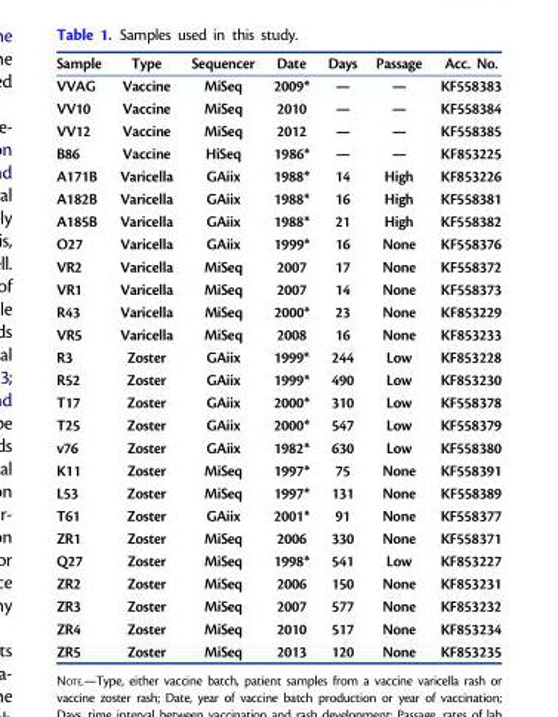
<table><thead><tr><td>Sample</td><td>Type</td><td>Sequencer</td><td>Date</td><td>Days</td><td>Passage</td><td>Acc. No.</td></tr></thead><tbody><tr><td>VVAG</td><td>Vaccine</td><td>MiSeq</td><td>2009*</td><td>—</td><td>—</td><td>KF558383</td></tr><tr><td>VV10</td><td>Vaccine</td><td>MiSeq</td><td>2010</td><td>—</td><td>—</td><td>KF558384</td></tr><tr><td>VV12</td><td>Vaccine</td><td>MiSeq</td><td>2012</td><td>—</td><td>—</td><td>KF558385</td></tr><tr><td>B86</td><td>Vaccine</td><td>HiSeq</td><td>1986*</td><td>—</td><td>—</td><td>KF853225</td></tr><tr><td>A171B</td><td>Varicella</td><td>GAiix</td><td>1988*</td><td>14</td><td>High</td><td>KF853226</td></tr><tr><td>A182B</td><td>Varicella</td><td>GAiix</td><td>1988*</td><td>16</td><td>High</td><td>KF558381</td></tr><tr><td>A185B</td><td>Varicella</td><td>GAiix</td><td>1988*</td><td>21</td><td>High</td><td>KF558382</td></tr><tr><td>O27</td><td>Varicella</td><td>GAiix</td><td>1999*</td><td>16</td><td>None</td><td>KF558376</td></tr><tr><td>VR2</td><td>Varicella</td><td>MiSeq</td><td>2007</td><td>17</td><td>None</td><td>KF558372</td></tr><tr><td>VR1</td><td>Varicella</td><td>MiSeq</td><td>2007</td><td>14</td><td>None</td><td>KF558373</td></tr><tr><td>R43</td><td>Varicella</td><td>MiSeq</td><td>2000*</td><td>23</td><td>None</td><td>KF853229</td></tr><tr><td>VR5</td><td>Varicella</td><td>MiSeq</td><td>2008</td><td>16</td><td>None</td><td>KF853233</td></tr><tr><td>R3</td><td>Zoster</td><td>GAiix</td><td>1999*</td><td>244</td><td>Low</td><td>KF853228</td></tr><tr><td>R52</td><td>Zoster</td><td>GAiix</td><td>1999*</td><td>490</td><td>Low</td><td>KF853230</td></tr><tr><td>T17</td><td>Zoster</td><td>GAiix</td><td>2000*</td><td>310</td><td>Low</td><td>KF558378</td></tr><tr><td>T25</td><td>Zoster</td><td>GAiix</td><td>2000*</td><td>547</td><td>Low</td><td>KF558379</td></tr><tr><td>v76</td><td>Zoster</td><td>GAiix</td><td>1982*</td><td>630</td><td>Low</td><td>KF558380</td></tr><tr><td>K11</td><td>Zoster</td><td>MiSeq</td><td>1997*</td><td>75</td><td>None</td><td>KF558391</td></tr><tr><td>L53</td><td>Zoster</td><td>MiSeq</td><td>1997*</td><td>131</td><td>None</td><td>KF558389</td></tr><tr><td>T61</td><td>Zoster</td><td>GAiix</td><td>2001*</td><td>91</td><td>None</td><td>KF558377</td></tr><tr><td>ZR1</td><td>Zoster</td><td>MiSeq</td><td>2006</td><td>330</td><td>None</td><td>KF558371</td></tr><tr><td>Q27</td><td>Zoster</td><td>MiSeq</td><td>1998*</td><td>541</td><td>Low</td><td>KF853227</td></tr><tr><td>ZR2</td><td>Zoster</td><td>MiSeq</td><td>2006</td><td>150</td><td>None</td><td>KF853231</td></tr><tr><td>ZR3</td><td>Zoster</td><td>MiSeq</td><td>2007</td><td>577</td><td>None</td><td>KF853232</td></tr><tr><td>ZR4</td><td>Zoster</td><td>MiSeq</td><td>2010</td><td>517</td><td>None</td><td>KF853234</td></tr><tr><td>ZR5</td><td>Zoster</td><td>MiSeq</td><td>2013</td><td>120</td><td>None</td><td>KF853235</td></tr></tbody></table>